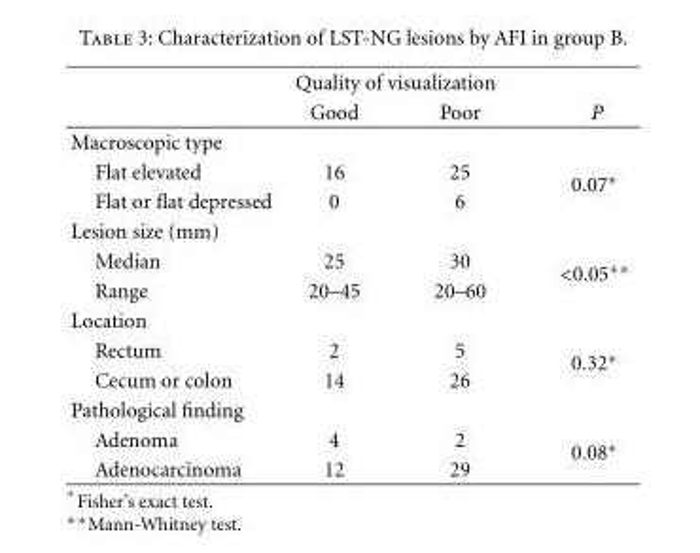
<table><thead><tr><td rowspan="2"></td><td colspan="2">Quality of visualization</td><td rowspan="2">P</td></tr><tr><td>Good</td><td>Poor</td></tr></thead><tbody><tr><td colspan="4">Macroscopic type</td></tr><tr><td>Flat elevated</td><td>16</td><td>25</td><td rowspan="2">0.07∗</td></tr><tr><td>Flat or flat depressed</td><td>0</td><td>6</td></tr><tr><td colspan="4">Lesion size (mm)</td></tr><tr><td>Median</td><td>25</td><td>30</td><td rowspan="2">&lt;0.05∗∗</td></tr><tr><td>Range</td><td>20–45</td><td>20–60</td></tr><tr><td colspan="4">Location</td></tr><tr><td>Rectum</td><td>2</td><td>5</td><td rowspan="2">0.32∗</td></tr><tr><td>Cecum or colon</td><td>14</td><td>26</td></tr><tr><td colspan="4">Pathological finding</td></tr><tr><td>Adenoma</td><td>4</td><td>2</td><td rowspan="2">0.08∗</td></tr><tr><td>Adenocarcinoma</td><td>12</td><td>29</td></tr></tbody></table>